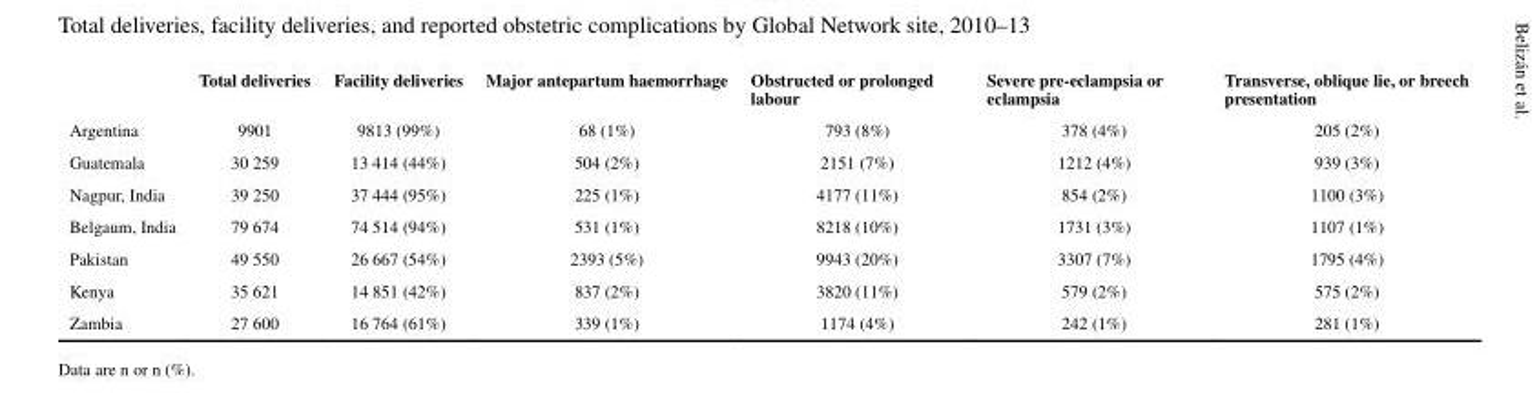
<table><thead><tr><td></td><td>Total deliveries</td><td>Facility deliveries</td><td>Major antepartum haemorrhage</td><td>Obstructed or prolonged labour</td><td>Severe pre-eclampsia or eclampsia</td><td>Transverse, oblique lie, or breech presentation</td></tr></thead><tbody><tr><td>Argentina</td><td>9901</td><td>9813 (99%)</td><td>68 (1%)</td><td>793 (8%)</td><td>378 (4%)</td><td>205 (2%)</td></tr><tr><td>Guatemala</td><td>30 259</td><td>13 414 (44%)</td><td>504 (2%)</td><td>2151 (7%)</td><td>1212 (4%)</td><td>939 (3%)</td></tr><tr><td>Nagpur, India</td><td>39 250</td><td>37 444 (95%)</td><td>225 (1%)</td><td>4177 (11%)</td><td>854 (2%)</td><td>1100 (3%)</td></tr><tr><td>Belgaum, India</td><td>79 674</td><td>74 514 (94%)</td><td>531 (1%)</td><td>8218 (10%)</td><td>1731 (3%)</td><td>1107 (1%)</td></tr><tr><td>Pakistan</td><td>49 550</td><td>26 667 (54%)</td><td>2393 (5%)</td><td>9943 (20%)</td><td>3307 (7%)</td><td>1795 (4%)</td></tr><tr><td>Kenya</td><td>35 621</td><td>14 851 (42%)</td><td>837 (2%)</td><td>3820 (11%)</td><td>579 (2%)</td><td>575 (2%)</td></tr><tr><td>Zambia</td><td>27 600</td><td>16 764 (61%)</td><td>339 (1%)</td><td>1174 (4%)</td><td>242 (1%)</td><td>281 (1%)</td></tr></tbody></table>